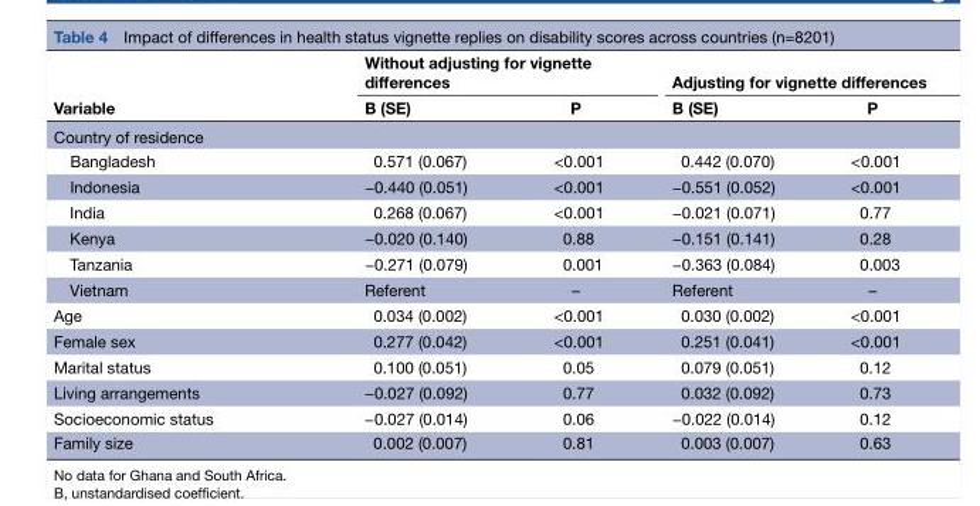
<table><thead><tr><td rowspan="2">Variable</td><td colspan="2">Without adjusting for vignette differences</td><td colspan="2">Adjusting for vignette differences</td></tr><tr><td>B (SE)</td><td>P</td><td>B (SE)</td><td>P</td></tr></thead><tbody><tr><td colspan="5">Country of residence</td></tr><tr><td>Bangladesh</td><td>0.571 (0.067)</td><td>&lt;0.001</td><td>0.442 (0.070)</td><td>&lt;0.001</td></tr><tr><td>Indonesia</td><td>−0.440 (0.051)</td><td>&lt;0.001</td><td>−0.551 (0.052)</td><td>&lt;0.001</td></tr><tr><td>India</td><td>0.268 (0.067)</td><td>&lt;0.001</td><td>−0.021 (0.071)</td><td>0.77</td></tr><tr><td>Kenya</td><td>−0.020 (0.140)</td><td>0.88</td><td>−0.151 (0.141)</td><td>0.28</td></tr><tr><td>Tanzania</td><td>−0.271 (0.079)</td><td>0.001</td><td>−0.363 (0.084)</td><td>0.003</td></tr><tr><td>Vietnam</td><td>Referent</td><td>–</td><td>Referent</td><td>–</td></tr><tr><td>Age</td><td>0.034 (0.002)</td><td>&lt;0.001</td><td>0.030 (0.002)</td><td>&lt;0.001</td></tr><tr><td>Female sex</td><td>0.277 (0.042)</td><td>&lt;0.001</td><td>0.251 (0.041)</td><td>&lt;0.001</td></tr><tr><td>Marital status</td><td>0.100 (0.051)</td><td>0.05</td><td>0.079 (0.051)</td><td>0.12</td></tr><tr><td>Living arrangements</td><td>−0.027 (0.092)</td><td>0.77</td><td>0.032 (0.092)</td><td>0.73</td></tr><tr><td>Socioeconomic status</td><td>−0.027 (0.014)</td><td>0.06</td><td>−0.022 (0.014)</td><td>0.12</td></tr><tr><td>Family size</td><td>0.002 (0.007)</td><td>0.81</td><td>0.003 (0.007)</td><td>0.63</td></tr></tbody></table>